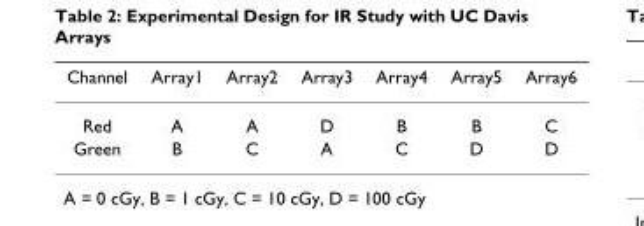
<table><thead><tr><td>Channel</td><td>Array1</td><td>Array2</td><td>Array3</td><td>Array4</td><td>Array5</td><td>Array6</td></tr></thead><tbody><tr><td>Red</td><td>A</td><td>A</td><td>D</td><td>B</td><td>B</td><td>C</td></tr><tr><td>Green</td><td>B</td><td>C</td><td>A</td><td>C</td><td>D</td><td>D</td></tr></tbody></table>